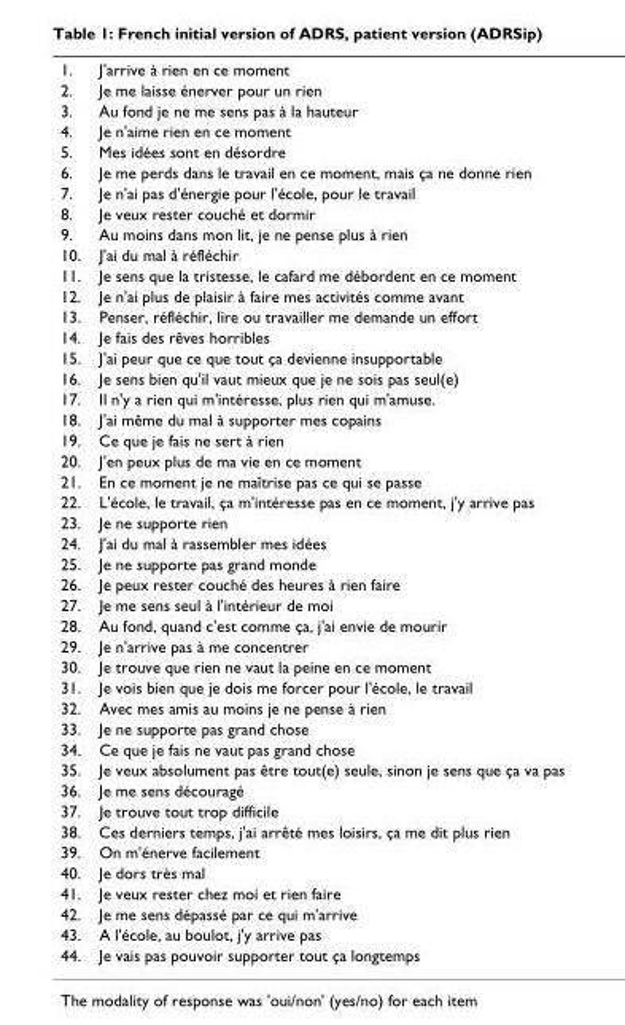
<table><tbody><tr><td>1.</td><td>J&#x27;arrive à rien en ce moment</td></tr><tr><td>2.</td><td>Je me laisse énerver pour un rien</td></tr><tr><td>3.</td><td>Au fond je ne me sens pas à la hauteur</td></tr><tr><td>4.</td><td>Je n&#x27;aime rien en ce moment</td></tr><tr><td>5.</td><td>Mes idées sont en désordre</td></tr><tr><td>6.</td><td>Je me perds dans le travail en ce moment, mais ça ne donne rien</td></tr><tr><td>7.</td><td>Je n&#x27;ai pas d&#x27;énergie pour l&#x27;école, pour le travail</td></tr><tr><td>8.</td><td>Je veux rester couché et dormir</td></tr><tr><td>9.</td><td>Au moins dans mon lit, je ne pense plus à rien</td></tr><tr><td>10.</td><td>J&#x27;ai du mal à réfléchir</td></tr><tr><td>11.</td><td>Je sens que la tristesse, le cafard me débordent en ce moment</td></tr><tr><td>12.</td><td>Je n&#x27;ai plus de plaisir à faire mes activités comme avant</td></tr><tr><td>13.</td><td>Penser, réfléchir, lire ou travailler me demande un effort</td></tr><tr><td>14.</td><td>Je fais des rêves horribles</td></tr><tr><td>15.</td><td>J&#x27;ai peur que ce que tout ça devienne insupportable</td></tr><tr><td>16.</td><td>Je sens bien qu&#x27;il vaut mieux que je ne sois pas seul(e)</td></tr><tr><td>17.</td><td>Il n&#x27;y a rien qui m&#x27;intéresse, plus rien qui m&#x27;amuse.</td></tr><tr><td>18.</td><td>J&#x27;ai même du mal à supporter mes copains</td></tr><tr><td>19.</td><td>Ce que je fais ne sert à rien</td></tr><tr><td>20.</td><td>J&#x27;en peux plus de ma vie en ce moment</td></tr><tr><td>21.</td><td>En ce moment je ne maîtrise pas ce qui se passe</td></tr><tr><td>22.</td><td>L&#x27;école, le travail, ça m&#x27;intéresse pas en ce moment, j&#x27;y arrive pas</td></tr><tr><td>23.</td><td>Je ne supporte rien</td></tr><tr><td>24.</td><td>J&#x27;ai du mal à rassembler mes idées</td></tr><tr><td>25.</td><td>Je ne supporte pas grand monde</td></tr><tr><td>26.</td><td>Je peux rester couché des heures à rien faire</td></tr><tr><td>27.</td><td>Je me sens seul à l&#x27;intérieur de moi</td></tr><tr><td>28.</td><td>Au fond, quand c&#x27;est comme ça, j&#x27;ai envie de mourir</td></tr><tr><td>29.</td><td>Je n&#x27;arrive pas à me concentrer</td></tr><tr><td>30.</td><td>Je trouve que rien ne vaut la peine en ce moment</td></tr><tr><td>31.</td><td>Je vois bien que je dois me forcer pour l&#x27;école, le travail</td></tr><tr><td>32.</td><td>Avec mes amis au moins je ne pense à rien</td></tr><tr><td>33.</td><td>Je ne supporte pas grand chose</td></tr><tr><td>34.</td><td>Ce que je fais ne vaut pas grand chose</td></tr><tr><td>35.</td><td>Je veux absolument pas être tout(e) seule, sinon je sens que ça va pas</td></tr><tr><td>36.</td><td>Je me sens découragé</td></tr><tr><td>37.</td><td>Je trouve tout trop difficile</td></tr><tr><td>38.</td><td>Ces derniers temps, j&#x27;ai arrêté mes loisirs, ça me dit plus rien</td></tr><tr><td>39.</td><td>On m&#x27;énerve facilement</td></tr><tr><td>40.</td><td>Je dors très mal</td></tr><tr><td>41.</td><td>Je veux rester chez moi et rien faire</td></tr><tr><td>42.</td><td>Je me sens dépassé par ce qui m&#x27;arrive</td></tr><tr><td>43.</td><td>A l&#x27;école, au boulot, j&#x27;y arrive pas</td></tr><tr><td>44.</td><td>Je vais pas pouvoir supporter tout ça longtemps</td></tr></tbody></table>